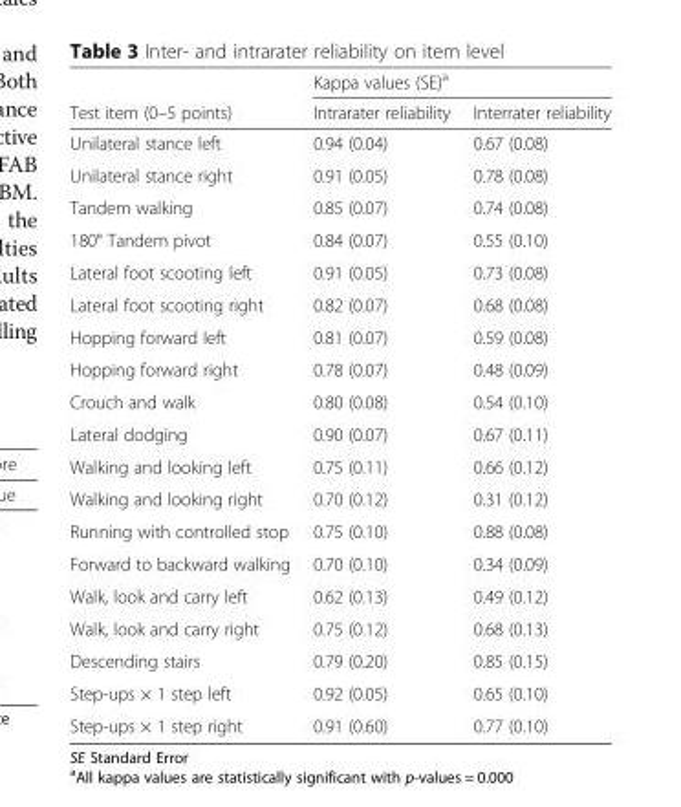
<table><thead><tr><td rowspan="2">Test item (0–5 points)</td><td colspan="2">Kappa values (SE)<sup>a</sup></td></tr><tr><td>Intrarater reliability</td><td>Interrater reliability</td></tr></thead><tbody><tr><td>Unilateral stance left</td><td>0.94 (0.04)</td><td>0.67 (0.08)</td></tr><tr><td>Unilateral stance right</td><td>0.91 (0.05)</td><td>0.78 (0.08)</td></tr><tr><td>Tandem walking</td><td>0.85 (0.07)</td><td>0.74 (0.08)</td></tr><tr><td>180° Tandem pivot</td><td>0.84 (0.07)</td><td>0.55 (0.10)</td></tr><tr><td>Lateral foot scooting left</td><td>0.91 (0.05)</td><td>0.73 (0.08)</td></tr><tr><td>Lateral foot scooting right</td><td>0.82 (0.07)</td><td>0.68 (0.08)</td></tr><tr><td>Hopping forward left</td><td>0.81 (0.07)</td><td>0.59 (0.08)</td></tr><tr><td>Hopping forward right</td><td>0.78 (0.07)</td><td>0.48 (0.09)</td></tr><tr><td>Crouch and walk</td><td>0.80 (0.08)</td><td>0.54 (0.10)</td></tr><tr><td>Lateral dodging</td><td>0.90 (0.07)</td><td>0.67 (0.11)</td></tr><tr><td>Walking and looking left</td><td>0.75 (0.11)</td><td>0.66 (0.12)</td></tr><tr><td>Walking and looking right</td><td>0.70 (0.12)</td><td>0.31 (0.12)</td></tr><tr><td>Running with controlled stop</td><td>0.75 (0.10)</td><td>0.88 (0.08)</td></tr><tr><td>Forward to backward walking</td><td>0.70 (0.10)</td><td>0.34 (0.09)</td></tr><tr><td>Walk, look and carry left</td><td>0.62 (0.13)</td><td>0.49 (0.12)</td></tr><tr><td>Walk, look and carry right</td><td>0.75 (0.12)</td><td>0.68 (0.13)</td></tr><tr><td>Descending stairs</td><td>0.79 (0.20)</td><td>0.85 (0.15)</td></tr><tr><td>Step-ups × 1 step left</td><td>0.92 (0.05)</td><td>0.65 (0.10)</td></tr><tr><td>Step-ups × 1 step right</td><td>0.91 (0.60)</td><td>0.77 (0.10)</td></tr></tbody></table>